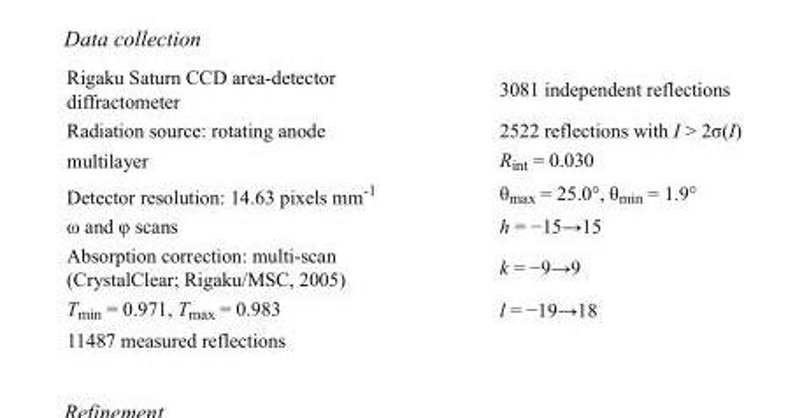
<table><tbody><tr><td>Rigaku Saturn CCD area-detector diffractometer</td><td>3081 independent reflections</td></tr><tr><td>Radiation source: rotating anode</td><td>2522 reflections with I &gt; 2σ(I)</td></tr><tr><td>multilayer</td><td>R<sub>int</sub> = 0.030</td></tr><tr><td>Detector resolution: 14.63 pixels mm<sup>-1</sup></td><td>θ<sub>max</sub> = 25.0°, θ<sub>min</sub> = 1.9°</td></tr><tr><td>ω and φ scans</td><td>h = −15→15</td></tr><tr><td>Absorption correction: multi-scan (CrystalClear; Rigaku/MSC, 2005)</td><td>k = −9→9</td></tr><tr><td>T<sub>min</sub> = 0.971, T<sub>max</sub> = 0.983</td><td>l = −19→18</td></tr><tr><td>11487 measured reflections</td><td></td></tr></tbody></table>